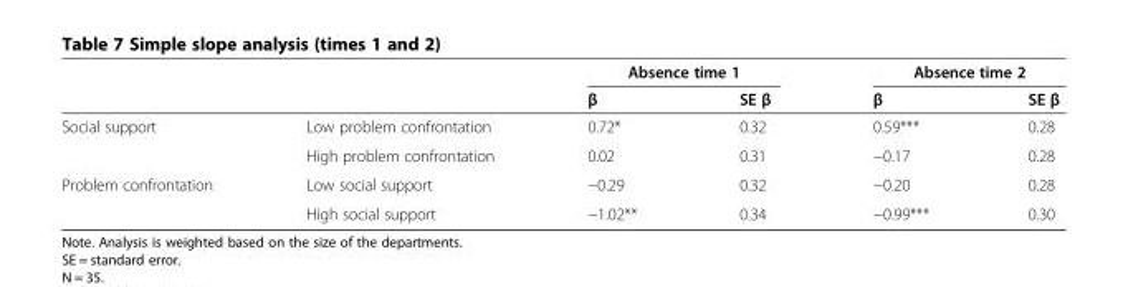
<table><thead><tr><td rowspan="2"></td><td rowspan="2"></td><td colspan="2">Absence time 1</td><td colspan="2">Absence time 2</td></tr><tr><td>β</td><td>SE β</td><td>β</td><td>SE β</td></tr></thead><tbody><tr><td rowspan="2">Social support</td><td>Low problem confrontation</td><td>0.72*</td><td>0.32</td><td>0.59***</td><td>0.28</td></tr><tr><td>High problem confrontation</td><td>0.02</td><td>0.31</td><td>−0.17</td><td>0.28</td></tr><tr><td rowspan="2">Problem confrontation</td><td>Low social support</td><td>−0.29</td><td>0.32</td><td>−0.20</td><td>0.28</td></tr><tr><td>High social support</td><td>−1.02**</td><td>0.34</td><td>−0.99***</td><td>0.30</td></tr></tbody></table>